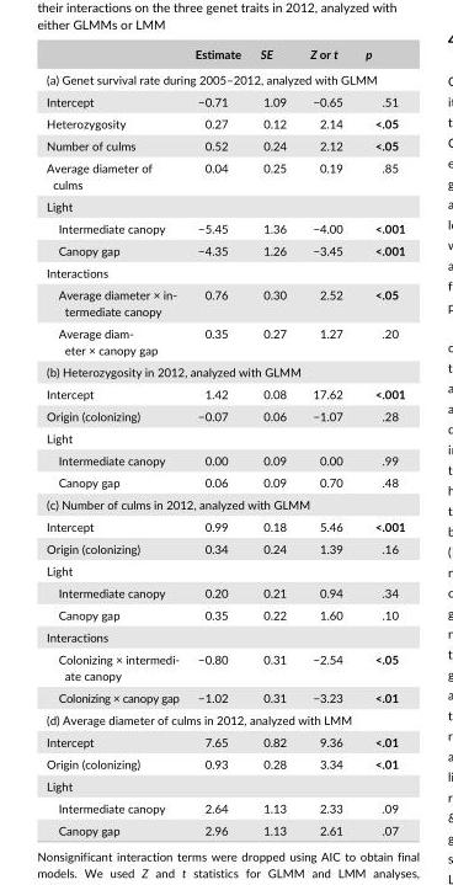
<table><thead><tr><td></td><td>Estimate</td><td>SE</td><td>Z or t</td><td>p</td></tr></thead><tbody><tr><td colspan="5">(a) Genet survival rate during 2005–2012, analyzed with GLMM</td></tr><tr><td>Intercept</td><td>−0.71</td><td>1.09</td><td>−0.65</td><td>.51</td></tr><tr><td>Heterozygosity</td><td>0.27</td><td>0.12</td><td>2.14</td><td>&lt;.05</td></tr><tr><td>Number of culms</td><td>0.52</td><td>0.24</td><td>2.12</td><td>&lt;.05</td></tr><tr><td>Average diameter of culms</td><td>0.04</td><td>0.25</td><td>0.19</td><td>.85</td></tr><tr><td colspan="5">Light</td></tr><tr><td>Intermediate canopy</td><td>−5.45</td><td>1.36</td><td>−4.00</td><td>&lt;.001</td></tr><tr><td>Canopy gap</td><td>−4.35</td><td>1.26</td><td>−3.45</td><td>&lt;.001</td></tr><tr><td colspan="5">Interactions</td></tr><tr><td>Average diameter × in- termediate canopy</td><td>0.76</td><td>0.30</td><td>2.52</td><td>&lt;.05</td></tr><tr><td>Average diam- eter × canopy gap</td><td>0.35</td><td>0.27</td><td>1.27</td><td>.20</td></tr><tr><td colspan="5">(b) Heterozygosity in 2012, analyzed with GLMM</td></tr><tr><td>Intercept</td><td>1.42</td><td>0.08</td><td>17.62</td><td>&lt;.001</td></tr><tr><td>Origin (colonizing)</td><td>−0.07</td><td>0.06</td><td>−1.07</td><td>.28</td></tr><tr><td colspan="5">Light</td></tr><tr><td>Intermediate canopy</td><td>0.00</td><td>0.09</td><td>0.00</td><td>.99</td></tr><tr><td>Canopy gap</td><td>0.06</td><td>0.09</td><td>0.70</td><td>.48</td></tr><tr><td colspan="5">(c) Number of culms in 2012, analyzed with GLMM</td></tr><tr><td>Intercept</td><td>0.99</td><td>0.18</td><td>5.46</td><td>&lt;.001</td></tr><tr><td>Origin (colonizing)</td><td>0.34</td><td>0.24</td><td>1.39</td><td>.16</td></tr><tr><td colspan="5">Light</td></tr><tr><td>Intermediate canopy</td><td>0.20</td><td>0.21</td><td>0.94</td><td>.34</td></tr><tr><td>Canopy gap</td><td>0.35</td><td>0.22</td><td>1.60</td><td>.10</td></tr><tr><td colspan="5">Interactions</td></tr><tr><td>Colonizing × intermedi- ate canopy</td><td>−0.80</td><td>0.31</td><td>−2.54</td><td>&lt;.05</td></tr><tr><td>Colonizing × canopy gap</td><td>−1.02</td><td>0.31</td><td>−3.23</td><td>&lt;.01</td></tr><tr><td colspan="5">(d) Average diameter of culms in 2012, analyzed with LMM</td></tr><tr><td>Intercept</td><td>7.65</td><td>0.82</td><td>9.36</td><td>&lt;.01</td></tr><tr><td>Origin (colonizing)</td><td>0.93</td><td>0.28</td><td>3.34</td><td>&lt;.01</td></tr><tr><td colspan="5">Light</td></tr><tr><td>Intermediate canopy</td><td>2.64</td><td>1.13</td><td>2.33</td><td>.09</td></tr><tr><td>Canopy gap</td><td>2.96</td><td>1.13</td><td>2.61</td><td>.07</td></tr></tbody></table>